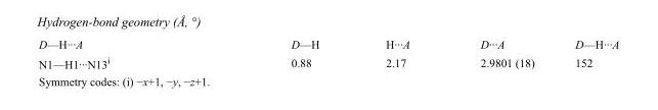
<table><tbody><tr><td>D—H···A</td><td>D—H</td><td>H···A</td><td>D···A</td><td>D—H···A</td></tr><tr><td>N1—H1···N13<sup>i</sup></td><td>0.88</td><td>2.17</td><td>2.9801 (18)</td><td>152</td></tr></tbody></table>